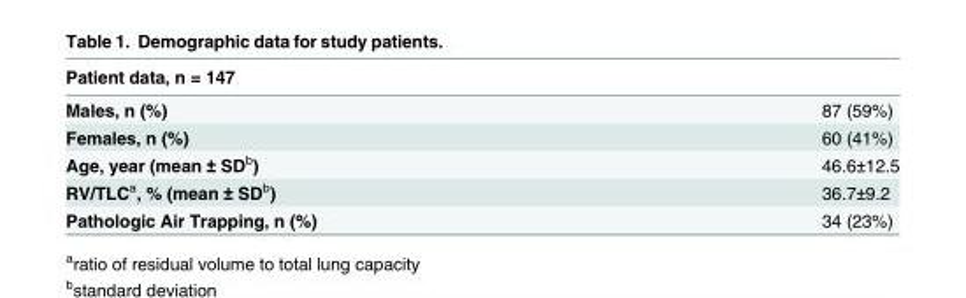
<table><thead><tr><td>Patient data, n = 147</td><td></td></tr></thead><tbody><tr><td>Males, n (%)</td><td>87 (59%)</td></tr><tr><td>Females, n (%)</td><td>60 (41%)</td></tr><tr><td>Age, year (mean ± SD<sup>b</sup>)</td><td>46.6±12.5</td></tr><tr><td>RV/TLC<sup>a</sup>, % (mean ± SD<sup>b</sup>)</td><td>36.7±9.2</td></tr><tr><td>Pathologic Air Trapping, n (%)</td><td>34 (23%)</td></tr></tbody></table>